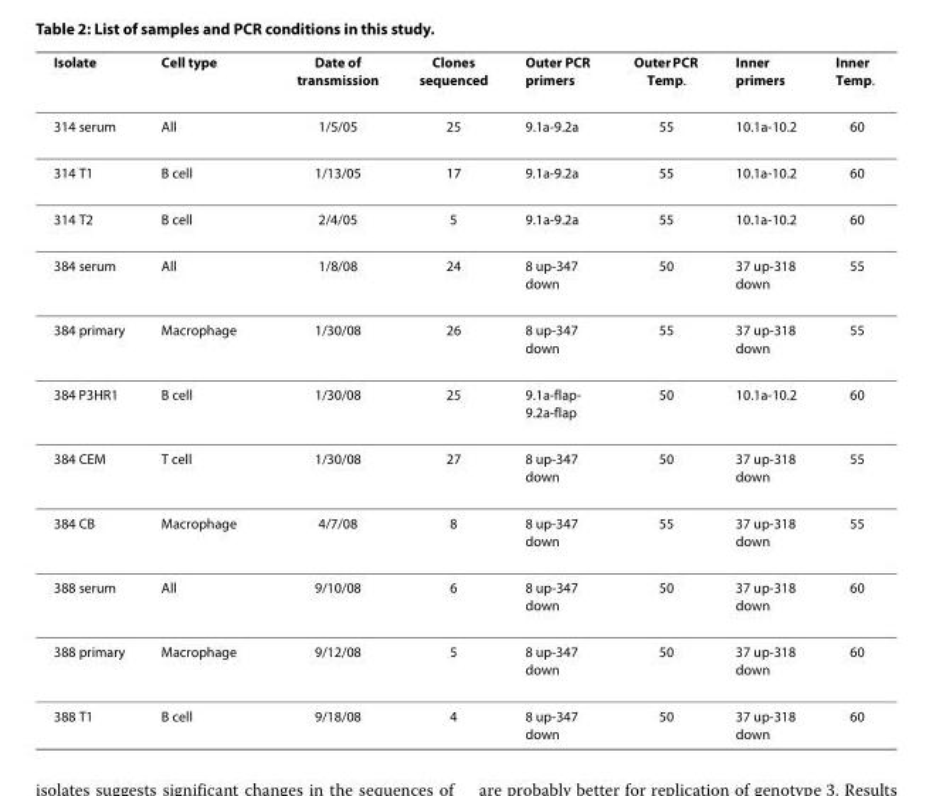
<table><thead><tr><td>Isolate</td><td>Cell type</td><td>Date of transmission</td><td>Clones sequenced</td><td>Outer PCR primers</td><td>Outer PCR Temp.</td><td>Inner primers</td><td>Inner Temp.</td></tr></thead><tbody><tr><td>314 serum</td><td>All</td><td>1/5/05</td><td>25</td><td>9.1a-9.2a</td><td>55</td><td>10.1a-10.2</td><td>60</td></tr><tr><td>314 T1</td><td>B cell</td><td>1/13/05</td><td>17</td><td>9.1a-9.2a</td><td>55</td><td>10.1a-10.2</td><td>60</td></tr><tr><td>314 T2</td><td>B cell</td><td>2/4/05</td><td>5</td><td>9.1a-9.2a</td><td>55</td><td>10.1a-10.2</td><td>60</td></tr><tr><td>384 serum</td><td>All</td><td>1/8/08</td><td>24</td><td>8 up-347 down</td><td>50</td><td>37 up-318 down</td><td>55</td></tr><tr><td>384 primary</td><td>Macrophage</td><td>1/30/08</td><td>26</td><td>8 up-347 down</td><td>55</td><td>37 up-318 down</td><td>55</td></tr><tr><td>384 P3HR1</td><td>B cell</td><td>1/30/08</td><td>25</td><td>9.1a-flap- 9.2a-flap</td><td>50</td><td>10.1a-10.2</td><td>60</td></tr><tr><td>384 CEM</td><td>T cell</td><td>1/30/08</td><td>27</td><td>8 up-347 down</td><td>50</td><td>37 up-318 down</td><td>55</td></tr><tr><td>384 CB</td><td>Macrophage</td><td>4/7/08</td><td>8</td><td>8 up-347 down</td><td>55</td><td>37 up-318 down</td><td>55</td></tr><tr><td>388 serum</td><td>All</td><td>9/10/08</td><td>6</td><td>8 up-347 down</td><td>50</td><td>37 up-318 down</td><td>60</td></tr><tr><td>388 primary</td><td>Macrophage</td><td>9/12/08</td><td>5</td><td>8 up-347 down</td><td>50</td><td>37 up-318 down</td><td>60</td></tr><tr><td>388 T1</td><td>B cell</td><td>9/18/08</td><td>4</td><td>8 up-347 down</td><td>50</td><td>37 up-318 down</td><td>60</td></tr></tbody></table>